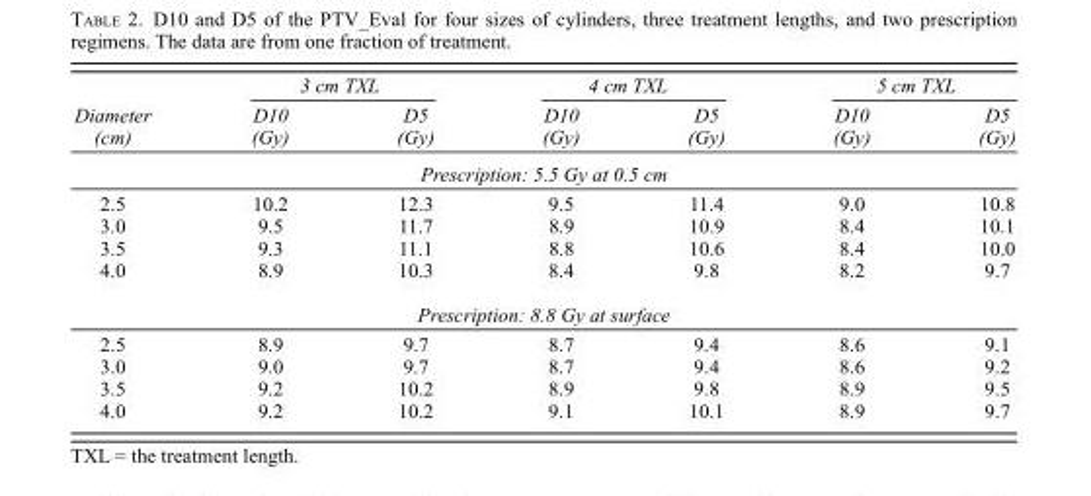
<table><thead><tr><td rowspan="2">Diameter (cm)</td><td colspan="2">3 cm TXL</td><td colspan="2">4 cm TXL</td><td colspan="2">5 cm TXL</td></tr><tr><td>D10 (Gy)</td><td>D5 (Gy)</td><td>D10 (Gy)</td><td>D5 (Gy)</td><td>D10 (Gy)</td><td>D5 (Gy)</td></tr></thead><tbody><tr><td colspan="7">Prescription: 5.5 Gy at 0.5 cm</td></tr><tr><td>2.5</td><td>10.2</td><td>12.3</td><td>9.5</td><td>11.4</td><td>9.0</td><td>10.8</td></tr><tr><td>3.0</td><td>9.5</td><td>11.7</td><td>8.9</td><td>10.9</td><td>8.4</td><td>10.1</td></tr><tr><td>3.5</td><td>9.3</td><td>11.1</td><td>8.8</td><td>10.6</td><td>8.4</td><td>10.0</td></tr><tr><td>4.0</td><td>8.9</td><td>10.3</td><td>8.4</td><td>9.8</td><td>8.2</td><td>9.7</td></tr><tr><td colspan="7">Prescription: 8.8 Gy at surface</td></tr><tr><td>2.5</td><td>8.9</td><td>9.7</td><td>8.7</td><td>9.4</td><td>8.6</td><td>9.1</td></tr><tr><td>3.0</td><td>9.0</td><td>9.7</td><td>8.7</td><td>9.4</td><td>8.6</td><td>9.2</td></tr><tr><td>3.5</td><td>9.2</td><td>10.2</td><td>8.9</td><td>9.8</td><td>8.9</td><td>9.5</td></tr><tr><td>4.0</td><td>9.2</td><td>10.2</td><td>9.1</td><td>10.1</td><td>8.9</td><td>9.7</td></tr></tbody></table>